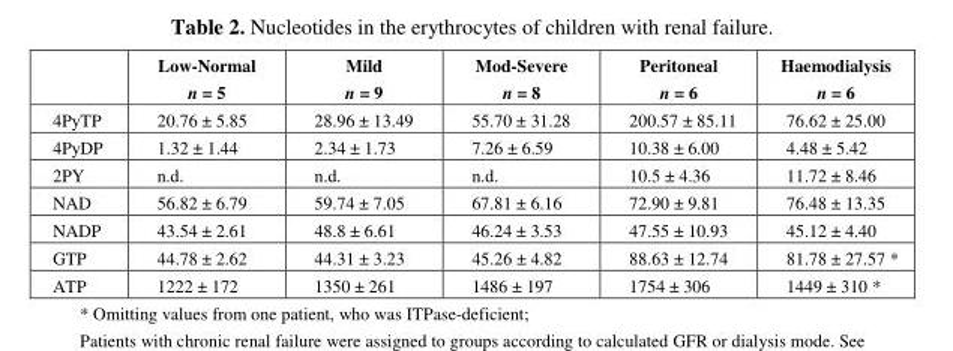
<table><thead><tr><td></td><td>Low-Normal n = 5</td><td>Mild n = 9</td><td>Mod-Severe n = 8</td><td>Peritoneal n = 6</td><td>Haemodialysis n = 6</td></tr></thead><tbody><tr><td>4PyTP</td><td>20.76 ± 5.85</td><td>28.96 ± 13.49</td><td>55.70 ± 31.28</td><td>200.57 ± 85.11</td><td>76.62 ± 25.00</td></tr><tr><td>4PyDP</td><td>1.32 ± 1.44</td><td>2.34 ± 1.73</td><td>7.26 ± 6.59</td><td>10.38 ± 6.00</td><td>4.48 ± 5.42</td></tr><tr><td>2PY</td><td>n.d.</td><td>n.d.</td><td>n.d.</td><td>10.5 ± 4.36</td><td>11.72 ± 8.46</td></tr><tr><td>NAD</td><td>56.82 ± 6.79</td><td>59.74 ± 7.05</td><td>67.81 ± 6.16</td><td>72.90 ± 9.81</td><td>76.48 ± 13.35</td></tr><tr><td>NADP</td><td>43.54 ± 2.61</td><td>48.8 ± 6.61</td><td>46.24 ± 3.53</td><td>47.55 ± 10.93</td><td>45.12 ± 4.40</td></tr><tr><td>GTP</td><td>44.78 ± 2.62</td><td>44.31 ± 3.23</td><td>45.26 ± 4.82</td><td>88.63 ± 12.74</td><td>81.78 ± 27.57 *</td></tr><tr><td>ATP</td><td>1222 ± 172</td><td>1350 ± 261</td><td>1486 ± 197</td><td>1754 ± 306</td><td>1449 ± 310 *</td></tr></tbody></table>